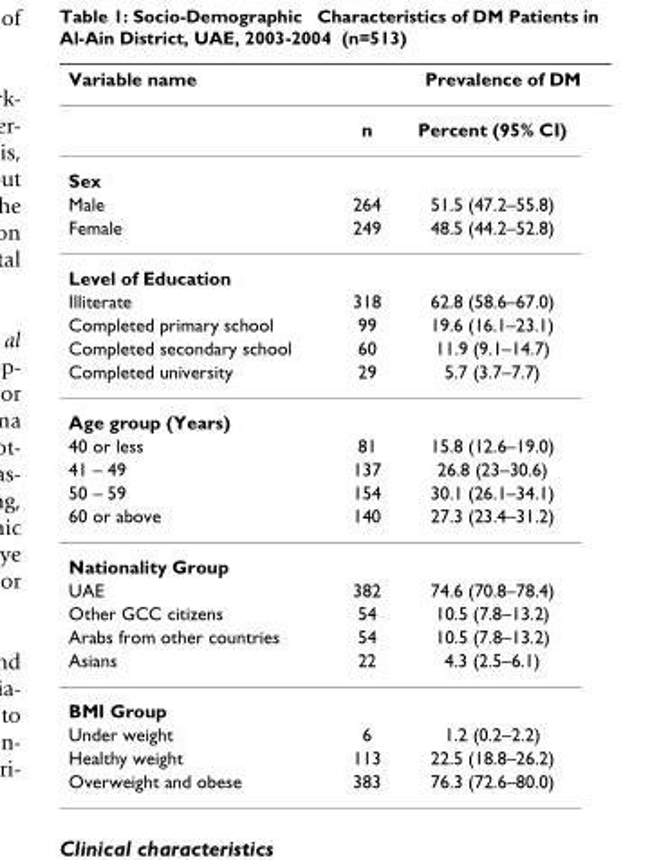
<table><thead><tr><td rowspan="2">Variable name</td><td colspan="2">Prevalence of DM</td></tr><tr><td>n</td><td>Percent (95% CI)</td></tr></thead><tbody><tr><td colspan="3">Sex</td></tr><tr><td>Male</td><td>264</td><td>51.5 (47.2–55.8)</td></tr><tr><td>Female</td><td>249</td><td>48.5 (44.2–52.8)</td></tr><tr><td colspan="3">Level of Education</td></tr><tr><td>Illiterate</td><td>318</td><td>62.8 (58.6–67.0)</td></tr><tr><td>Completed primary school</td><td>99</td><td>19.6 (16.1–23.1)</td></tr><tr><td>Completed secondary school</td><td>60</td><td>11.9 (9.1–14.7)</td></tr><tr><td>Completed university</td><td>29</td><td>5.7 (3.7–7.7)</td></tr><tr><td colspan="3">Age group (Years)</td></tr><tr><td>40 or less</td><td>81</td><td>15.8 (12.6–19.0)</td></tr><tr><td>41 – 49</td><td>137</td><td>26.8 (23–30.6)</td></tr><tr><td>50 – 59</td><td>154</td><td>30.1 (26.1–34.1)</td></tr><tr><td>60 or above</td><td>140</td><td>27.3 (23.4–31.2)</td></tr><tr><td colspan="3">Nationality Group</td></tr><tr><td>UAE</td><td>382</td><td>74.6 (70.8–78.4)</td></tr><tr><td>Other GCC citizens</td><td>54</td><td>10.5 (7.8–13.2)</td></tr><tr><td>Arabs from other countries</td><td>54</td><td>10.5 (7.8–13.2)</td></tr><tr><td>Asians</td><td>22</td><td>4.3 (2.5–6.1)</td></tr><tr><td colspan="3">BMI Group</td></tr><tr><td>Under weight</td><td>6</td><td>1.2 (0.2–2.2)</td></tr><tr><td>Healthy weight</td><td>113</td><td>22.5 (18.8–26.2)</td></tr><tr><td>Overweight and obese</td><td>383</td><td>76.3 (72.6–80.0)</td></tr></tbody></table>